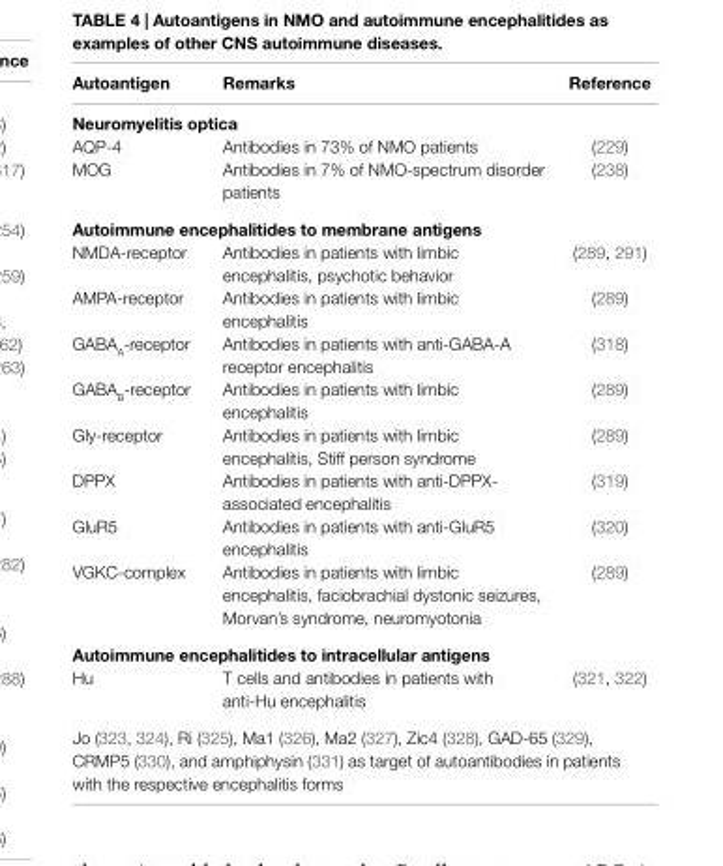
<table><thead><tr><td>Autoantigen</td><td>Remarks</td><td>Reference</td></tr></thead><tbody><tr><td colspan="3">Neuromyelitis optica</td></tr><tr><td>AQP-4</td><td>Antibodies in 73% of NMO patients</td><td>(229)</td></tr><tr><td>MOG</td><td>Antibodies in 7% of NMO-spectrum disorder patients</td><td>(238)</td></tr><tr><td colspan="3">Autoimmune encephalitides to membrane antigens</td></tr><tr><td>NMDA-receptor</td><td>Antibodies in patients with limbic encephalitis, psychotic behavior</td><td>(289, 291)</td></tr><tr><td>AMPA-receptor</td><td>Antibodies in patients with limbic encephalitis</td><td>(289)</td></tr><tr><td>GABA<sub>A</sub>-receptor</td><td>Antibodies in patients with anti-GABA-A receptor encephalitis</td><td>(318)</td></tr><tr><td>GABA<sub>B</sub>-receptor</td><td>Antibodies in patients with limbic encephalitis</td><td>(289)</td></tr><tr><td>Gly-receptor</td><td>Antibodies in patients with limbic encephalitis, Stiff person syndrome</td><td>(289)</td></tr><tr><td>DPPX</td><td>Antibodies in patients with anti-DPPX- associated encephalitis</td><td>(319)</td></tr><tr><td>GluR5</td><td>Antibodies in patients with anti-GluR5 encephalitis</td><td>(320)</td></tr><tr><td>VGKC-complex</td><td>Antibodies in patients with limbic encephalitis, faciobrachial dystonic seizures, Morvan’s syndrome, neuromyotonia</td><td>(289)</td></tr><tr><td colspan="3">Autoimmune encephalitides to intracellular antigens</td></tr><tr><td>Hu</td><td>T cells and antibodies in patients with anti-Hu encephalitis</td><td>(321, 322)</td></tr><tr><td colspan="3">Jo (323, 324), Ri (325), Ma1 (326), Ma2 (327), Zic4 (328), GAD-65 (329), CRMP5 (330), and amphiphysin (331) as target of autoantibodies in patients with the respective encephalitis forms</td></tr></tbody></table>